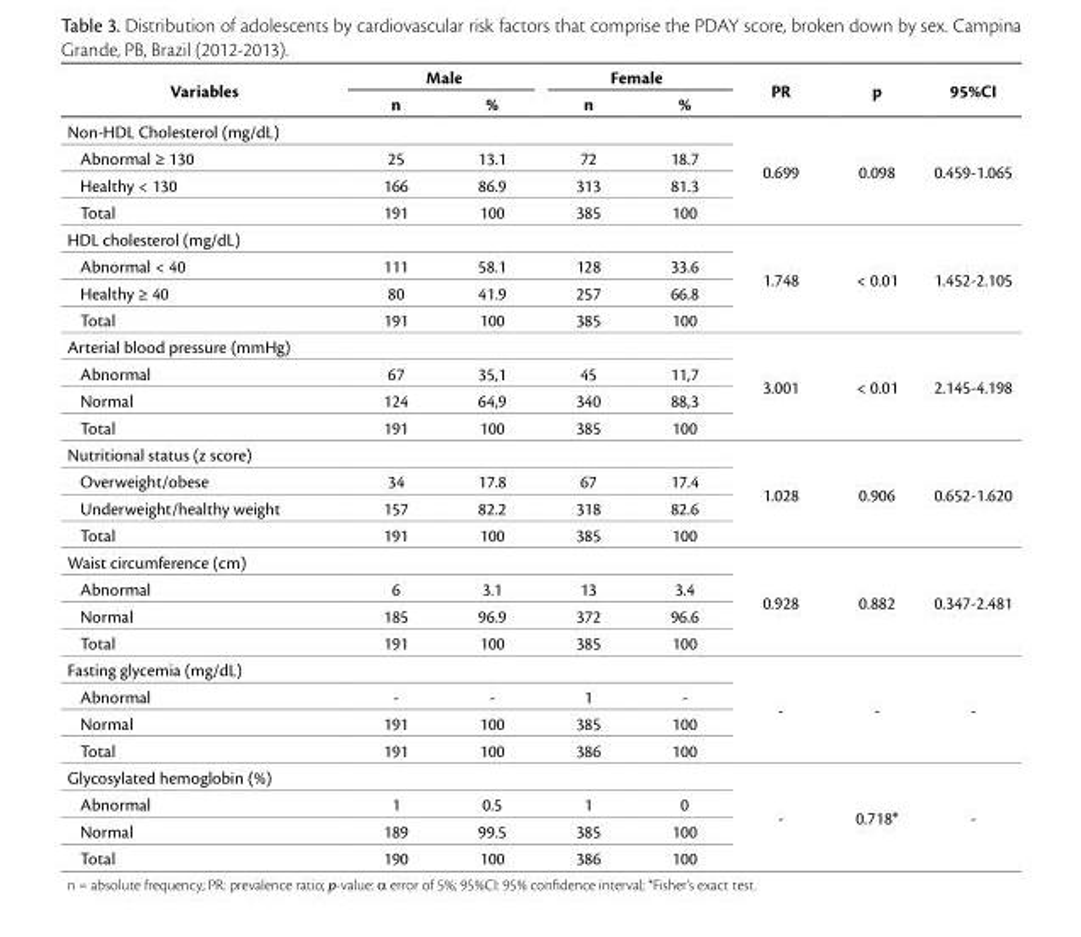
<table><thead><tr><td rowspan="2">Variables</td><td colspan="2">Male</td><td colspan="2">Female</td><td rowspan="2">PR</td><td rowspan="2">p</td><td rowspan="2">95%CI</td></tr><tr><td>n</td><td>%</td><td>n</td><td>%</td></tr></thead><tbody><tr><td colspan="5">Non-HDL Cholesterol (mg/dL)</td><td rowspan="4">0.699</td><td rowspan="4">0.098</td><td rowspan="4">0.459-1.065</td></tr><tr><td>Abnormal ≥ 130</td><td>25</td><td>13.1</td><td>72</td><td>18.7</td></tr><tr><td>Healthy &lt; 130</td><td>166</td><td>86.9</td><td>313</td><td>81.3</td></tr><tr><td>Total</td><td>191</td><td>100</td><td>385</td><td>100</td></tr><tr><td colspan="5">HDL cholesterol (mg/dL)</td><td rowspan="4">1.748</td><td rowspan="4">&lt; 0.01</td><td rowspan="4">1.452-2.105</td></tr><tr><td>Abnormal &lt; 40</td><td>111</td><td>58.1</td><td>128</td><td>33.6</td></tr><tr><td>Healthy ≥ 40</td><td>80</td><td>41.9</td><td>257</td><td>66.8</td></tr><tr><td>Total</td><td>191</td><td>100</td><td>385</td><td>100</td></tr><tr><td colspan="5">Arterial blood pressure (mmHg)</td><td rowspan="4">3.001</td><td rowspan="4">&lt; 0.01</td><td rowspan="4">2.145-4.198</td></tr><tr><td>Abnormal</td><td>67</td><td>35,1</td><td>45</td><td>11,7</td></tr><tr><td>Normal</td><td>124</td><td>64,9</td><td>340</td><td>88,3</td></tr><tr><td>Total</td><td>191</td><td>100</td><td>385</td><td>100</td></tr><tr><td colspan="5">Nutritional status (z score)</td><td rowspan="4">1.028</td><td rowspan="4">0.906</td><td rowspan="4">0.652-1.620</td></tr><tr><td>Overweight/obese</td><td>34</td><td>17.8</td><td>67</td><td>17.4</td></tr><tr><td>Underweight/healthy weight</td><td>157</td><td>82.2</td><td>318</td><td>82.6</td></tr><tr><td>Total</td><td>191</td><td>100</td><td>385</td><td>100</td></tr><tr><td colspan="5">Waist circumference (cm)</td><td rowspan="4">0.928</td><td rowspan="4">0.882</td><td rowspan="4">0.347-2.481</td></tr><tr><td>Abnormal</td><td>6</td><td>3.1</td><td>13</td><td>3.4</td></tr><tr><td>Normal</td><td>185</td><td>96.9</td><td>372</td><td>96.6</td></tr><tr><td>Total</td><td>191</td><td>100</td><td>385</td><td>100</td></tr><tr><td colspan="5">Fasting glycemia (mg/dL)</td><td rowspan="4">-</td><td rowspan="4">-</td><td rowspan="4">-</td></tr><tr><td>Abnormal</td><td>-</td><td>-</td><td>1</td><td>-</td></tr><tr><td>Normal</td><td>191</td><td>100</td><td>385</td><td>100</td></tr><tr><td>Total</td><td>191</td><td>100</td><td>386</td><td>100</td></tr><tr><td colspan="5">Glycosylated hemoglobin (%)</td><td rowspan="4">-</td><td rowspan="4">0.718*</td><td rowspan="4">-</td></tr><tr><td>Abnormal</td><td>1</td><td>0.5</td><td>1</td><td>0</td></tr><tr><td>Normal</td><td>189</td><td>99.5</td><td>385</td><td>100</td></tr><tr><td>Total</td><td>190</td><td>100</td><td>386</td><td>100</td></tr></tbody></table>